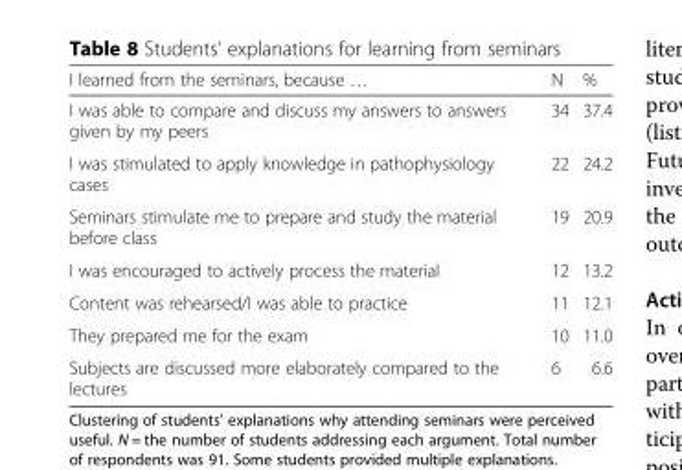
<table><thead><tr><td>I learned from the seminars, because …</td><td>N</td><td>%</td></tr></thead><tbody><tr><td>I was able to compare and discuss my answers to answers given by my peers</td><td>34</td><td>37.4</td></tr><tr><td>I was stimulated to apply knowledge in pathophysiology cases</td><td>22</td><td>24.2</td></tr><tr><td>Seminars stimulate me to prepare and study the material before class</td><td>19</td><td>20.9</td></tr><tr><td>I was encouraged to actively process the material</td><td>12</td><td>13.2</td></tr><tr><td>Content was rehearsed/I was able to practice</td><td>11</td><td>12.1</td></tr><tr><td>They prepared me for the exam</td><td>10</td><td>11.0</td></tr><tr><td>Subjects are discussed more elaborately compared to the lectures</td><td>6</td><td>6.6</td></tr></tbody></table>